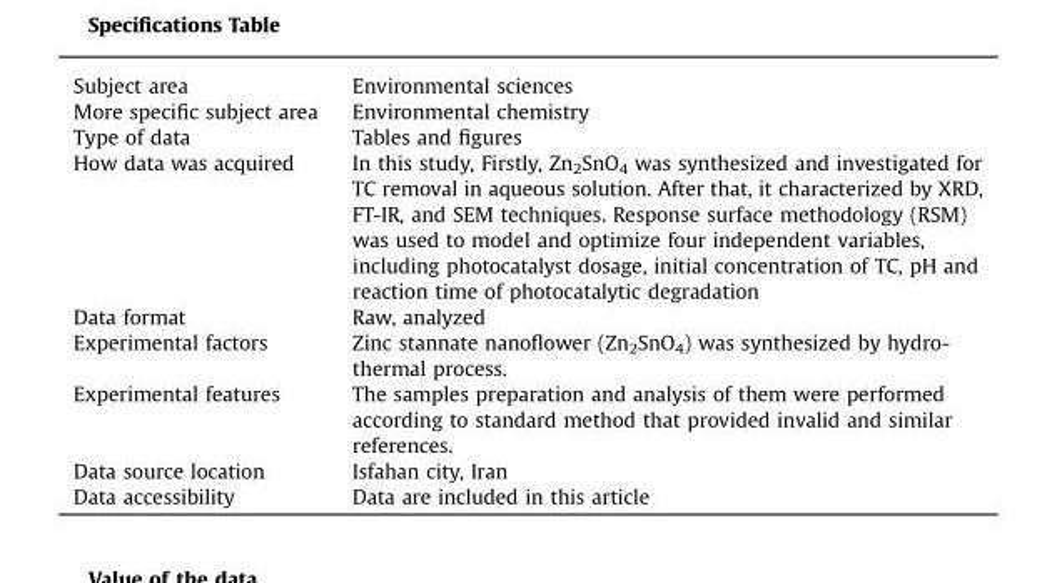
<table><tbody><tr><td>Subject area</td><td>Environmental sciences</td></tr><tr><td>More specific subject area</td><td>Environmental chemistry</td></tr><tr><td>Type of data</td><td>Tables and figures</td></tr><tr><td>How data was acquired</td><td>In this study, Firstly, Zn<sub>2</sub>SnO<sub>4</sub> was synthesized and investigated for TC removal in aqueous solution. After that, it characterized by XRD, FT-IR, and SEM techniques. Response surface methodology (RSM) was used to model and optimize four independent variables, including photocatalyst dosage, initial concentration of TC, pH and reaction time of photocatalytic degradation</td></tr><tr><td>Data format</td><td>Raw, analyzed</td></tr><tr><td>Experimental factors</td><td>Zinc stannate nanoflower (Zn2SnO4) was synthesized by hydro- thermal process.</td></tr><tr><td>Experimental features</td><td>The samples preparation and analysis of them were performed according to standard method that provided invalid and similar references.</td></tr><tr><td>Data source location</td><td>Isfahan city, Iran</td></tr><tr><td>Data accessibility</td><td>Data are included in this article</td></tr></tbody></table>